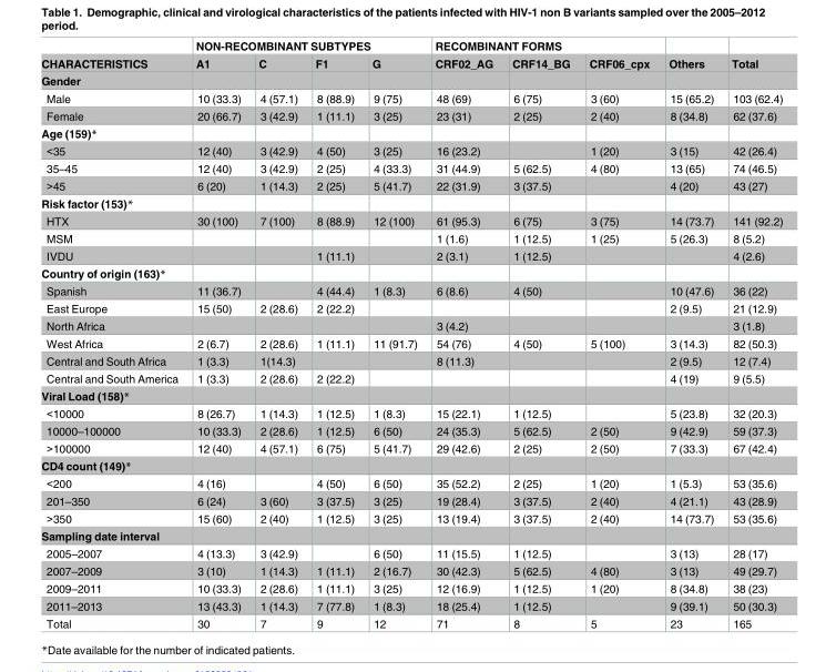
<table><thead><tr><td rowspan="2">CHARACTERISTICS</td><td colspan="4">NON-RECOMBINANT SUBTYPES</td><td colspan="3">RECOMBINANT FORMS</td><td rowspan="2">Others</td><td rowspan="2">Total</td></tr><tr><td>A1</td><td>C</td><td>F1</td><td>G</td><td>CRF02_AG</td><td>CRF14_BG</td><td>CRF06_cpx</td></tr></thead><tbody><tr><td colspan="10">Gender</td></tr><tr><td>Male</td><td>10 (33.3)</td><td>4 (57.1)</td><td>8 (88.9)</td><td>9 (75)</td><td>48 (69)</td><td>6 (75)</td><td>3 (60)</td><td>15 (65.2)</td><td>103 (62.4)</td></tr><tr><td>Female</td><td>20 (66.7)</td><td>3 (42.9)</td><td>1 (11.1)</td><td>3 (25)</td><td>23 (31)</td><td>2 (25)</td><td>2 (40)</td><td>8 (34.8)</td><td>62 (37.6)</td></tr><tr><td colspan="10">Age (159)*</td></tr><tr><td>&lt;35</td><td>12 (40)</td><td>3 (42.9)</td><td>4 (50)</td><td>3 (25)</td><td>16 (23.2)</td><td></td><td>1 (20)</td><td>3 (15)</td><td>42 (26.4)</td></tr><tr><td>35–45</td><td>12 (40)</td><td>3 (42.9)</td><td>2 (25)</td><td>4 (33.3)</td><td>31 (44.9)</td><td>5 (62.5)</td><td>4 (80)</td><td>13 (65)</td><td>74 (46.5)</td></tr><tr><td>&gt;45</td><td>6 (20)</td><td>1 (14.3)</td><td>2 (25)</td><td>5 (41.7)</td><td>22 (31.9)</td><td>3 (37.5)</td><td></td><td>4 (20)</td><td>43 (27)</td></tr><tr><td colspan="10">Risk factor (153)*</td></tr><tr><td>HTX</td><td>30 (100)</td><td>7 (100)</td><td>8 (88.9)</td><td>12 (100)</td><td>61 (95.3)</td><td>6 (75)</td><td>3 (75)</td><td>14 (73.7)</td><td>141 (92.2)</td></tr><tr><td>MSM</td><td></td><td></td><td></td><td></td><td>1 (1.6)</td><td>1 (12.5)</td><td>1 (25)</td><td>5 (26.3)</td><td>8 (5.2)</td></tr><tr><td>IVDU</td><td></td><td></td><td>1 (11.1)</td><td></td><td>2 (3.1)</td><td>1 (12.5)</td><td></td><td></td><td>4 (2.6)</td></tr><tr><td colspan="10">Country of origin (163)*</td></tr><tr><td>Spanish</td><td>11 (36.7)</td><td></td><td>4 (44.4)</td><td>1 (8.3)</td><td>6 (8.6)</td><td>4 (50)</td><td></td><td>10 (47.6)</td><td>36 (22)</td></tr><tr><td>East Europe</td><td>15 (50)</td><td>2 (28.6)</td><td>2 (22.2)</td><td></td><td></td><td></td><td></td><td>2 (9.5)</td><td>21 (12.9)</td></tr><tr><td>North Africa</td><td></td><td></td><td></td><td></td><td>3 (4.2)</td><td></td><td></td><td></td><td>3 (1.8)</td></tr><tr><td>West Africa</td><td>2 (6.7)</td><td>2 (28.6)</td><td>1 (11.1)</td><td>11 (91.7)</td><td>54 (76)</td><td>4 (50)</td><td>5 (100)</td><td>3 (14.3)</td><td>82 (50.3)</td></tr><tr><td>Central and South Africa</td><td>1 (3.3)</td><td>1(14.3)</td><td></td><td></td><td>8 (11.3)</td><td></td><td></td><td>2 (9.5)</td><td>12 (7.4)</td></tr><tr><td>Central and South America</td><td>1 (3.3)</td><td>2 (28.6)</td><td>2 (22.2)</td><td></td><td></td><td></td><td></td><td>4 (19)</td><td>9 (5.5)</td></tr><tr><td colspan="10">Viral Load (158)*</td></tr><tr><td>&lt;10000</td><td>8 (26.7)</td><td>1 (14.3)</td><td>1 (12.5)</td><td>1 (8.3)</td><td>15 (22.1)</td><td>1 (12.5)</td><td></td><td>5 (23.8)</td><td>32 (20.3)</td></tr><tr><td>10000–100000</td><td>10 (33.3)</td><td>2 (28.6)</td><td>1 (12.5)</td><td>6 (50)</td><td>24 (35.3)</td><td>5 (62.5)</td><td>2 (50)</td><td>9 (42.9)</td><td>59 (37.3)</td></tr><tr><td>&gt;100000</td><td>12 (40)</td><td>4 (57.1)</td><td>6 (75)</td><td>5 (41.7)</td><td>29 (42.6)</td><td>2 (25)</td><td>2 (50)</td><td>7 (33.3)</td><td>67 (42.4)</td></tr><tr><td colspan="10">CD4 count (149)*</td></tr><tr><td>&lt;200</td><td>4 (16)</td><td></td><td>4 (50)</td><td>6 (50)</td><td>35 (52.2)</td><td>2 (25)</td><td>1 (20)</td><td>1 (5.3)</td><td>53 (35.6)</td></tr><tr><td>201–350</td><td>6 (24)</td><td>3 (60)</td><td>3 (37.5)</td><td>3 (25)</td><td>19 (28.4)</td><td>3 (37.5)</td><td>2 (40)</td><td>4 (21.1)</td><td>43 (28.9)</td></tr><tr><td>&gt;350</td><td>15 (60)</td><td>2 (40)</td><td>1 (12.5)</td><td>3 (25)</td><td>13 (19.4)</td><td>3 (37.5)</td><td>2 (40)</td><td>14 (73.7)</td><td>53 (35.6)</td></tr><tr><td colspan="10">Sampling date interval</td></tr><tr><td>2005–2007</td><td>4 (13.3)</td><td>3 (42.9)</td><td></td><td>6 (50)</td><td>11 (15.5)</td><td>1 (12.5)</td><td></td><td>3 (13)</td><td>28 (17)</td></tr><tr><td>2007–2009</td><td>3 (10)</td><td>1 (14.3)</td><td>1 (11.1)</td><td>2 (16.7)</td><td>30 (42.3)</td><td>5 (62.5)</td><td>4 (80)</td><td>3 (13)</td><td>49 (29.7)</td></tr><tr><td>2009–2011</td><td>10 (33.3)</td><td>2 (28.6)</td><td>1 (11.1)</td><td>3 (25)</td><td>12 (16.9)</td><td>1 (12.5)</td><td>1 (20)</td><td>8 (34.8)</td><td>38 (23)</td></tr><tr><td>2011–2013</td><td>13 (43.3)</td><td>1 (14.3)</td><td>7 (77.8)</td><td>1 (8.3)</td><td>18 (25.4)</td><td>1 (12.5)</td><td></td><td>9 (39.1)</td><td>50 (30.3)</td></tr><tr><td>Total</td><td>30</td><td>7</td><td>9</td><td>12</td><td>71</td><td>8</td><td>5</td><td>23</td><td>165</td></tr></tbody></table>